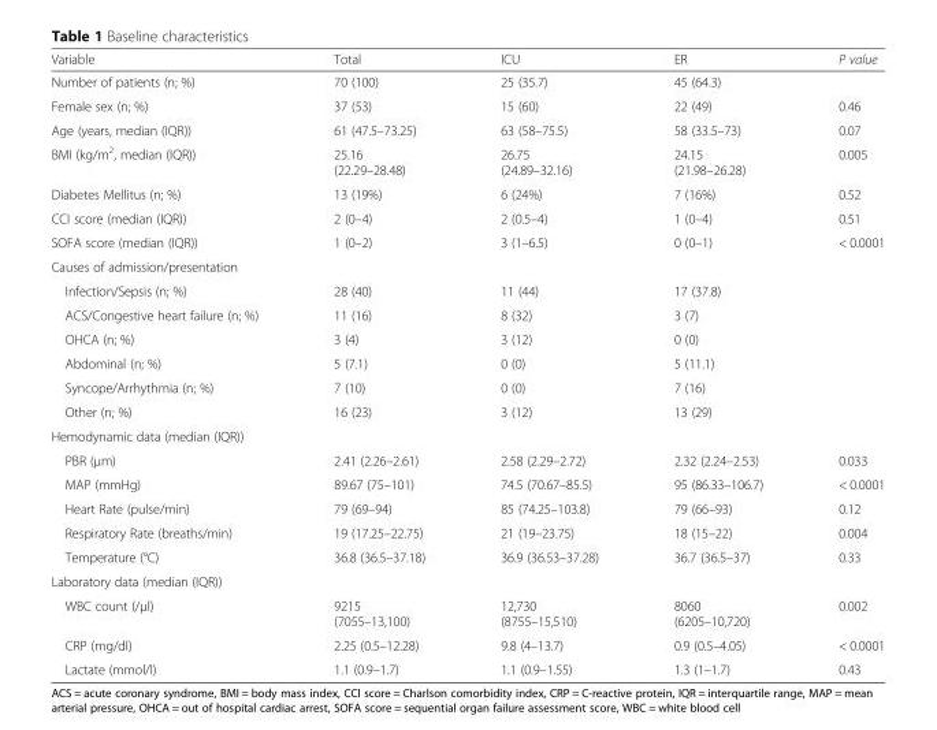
<table><thead><tr><td>Variable</td><td>Total</td><td>ICU</td><td>ER</td><td>P value</td></tr></thead><tbody><tr><td>Number of patients (n; %)</td><td>70 (100)</td><td>25 (35.7)</td><td>45 (64.3)</td><td></td></tr><tr><td>Female sex (n; %)</td><td>37 (53)</td><td>15 (60)</td><td>22 (49)</td><td>0.46</td></tr><tr><td>Age (years, median (IQR))</td><td>61 (47.5–73.25)</td><td>63 (58–75.5)</td><td>58 (33.5–73)</td><td>0.07</td></tr><tr><td>BMI (kg/m<sup>2</sup>, median (IQR))</td><td>25.16 (22.29–28.48)</td><td>26.75 (24.89–32.16)</td><td>24.15 (21.98–26.28)</td><td>0.005</td></tr><tr><td>Diabetes Mellitus (n; %)</td><td>13 (19%)</td><td>6 (24%)</td><td>7 (16%)</td><td>0.52</td></tr><tr><td>CCI score (median (IQR))</td><td>2 (0–4)</td><td>2 (0.5–4)</td><td>1 (0–4)</td><td>0.51</td></tr><tr><td>SOFA score (median (IQR))</td><td>1 (0–2)</td><td>3 (1–6.5)</td><td>0 (0–1)</td><td>&lt; 0.0001</td></tr><tr><td colspan="5">Causes of admission/presentation</td></tr><tr><td>Infection/Sepsis (n; %)</td><td>28 (40)</td><td>11 (44)</td><td>17 (37.8)</td><td></td></tr><tr><td>ACS/Congestive heart failure (n; %)</td><td>11 (16)</td><td>8 (32)</td><td>3 (7)</td><td></td></tr><tr><td>OHCA (n; %)</td><td>3 (4)</td><td>3 (12)</td><td>0 (0)</td><td></td></tr><tr><td>Abdominal (n; %)</td><td>5 (7.1)</td><td>0 (0)</td><td>5 (11.1)</td><td></td></tr><tr><td>Syncope/Arrhythmia (n; %)</td><td>7 (10)</td><td>0 (0)</td><td>7 (16)</td><td></td></tr><tr><td>Other (n; %)</td><td>16 (23)</td><td>3 (12)</td><td>13 (29)</td><td></td></tr><tr><td colspan="5">Hemodynamic data (median (IQR))</td></tr><tr><td>PBR (μm)</td><td>2.41 (2.26–2.61)</td><td>2.58 (2.29–2.72)</td><td>2.32 (2.24–2.53)</td><td>0.033</td></tr><tr><td>MAP (mmHg)</td><td>89.67 (75–101)</td><td>74.5 (70.67–85.5)</td><td>95 (86.33–106.7)</td><td>&lt; 0.0001</td></tr><tr><td>Heart Rate (pulse/min)</td><td>79 (69–94)</td><td>85 (74.25–103.8)</td><td>79 (66–93)</td><td>0.12</td></tr><tr><td>Respiratory Rate (breaths/min)</td><td>19 (17.25–22.75)</td><td>21 (19–23.75)</td><td>18 (15–22)</td><td>0.004</td></tr><tr><td>Temperature (°C)</td><td>36.8 (36.5–37.18)</td><td>36.9 (36.53–37.28)</td><td>36.7 (36.5–37)</td><td>0.33</td></tr><tr><td colspan="5">Laboratory data (median (IQR))</td></tr><tr><td>WBC count (/μl)</td><td>9215 (7055–13,100)</td><td>12,730 (8755–15,510)</td><td>8060 (6205–10,720)</td><td>0.002</td></tr><tr><td>CRP (mg/dl)</td><td>2.25 (0.5–12.28)</td><td>9.8 (4–13.7)</td><td>0.9 (0.5–4.05)</td><td>&lt; 0.0001</td></tr><tr><td>Lactate (mmol/l)</td><td>1.1 (0.9–1.7)</td><td>1.1 (0.9–1.55)</td><td>1.3 (1–1.7)</td><td>0.43</td></tr></tbody></table>